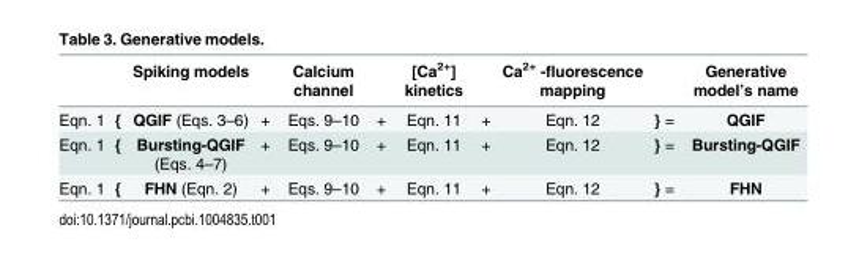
<table><thead><tr><td></td><td></td><td>Spiking models</td><td></td><td>Calcium channel</td><td></td><td>[Ca<sup>2+</sup>] kinetics</td><td></td><td>Ca<sup>2+</sup> -fluorescence mapping</td><td></td><td>Generative model’s name</td></tr></thead><tbody><tr><td>Eqn. 1</td><td>{</td><td>QGIF (Eqs. 3–6)</td><td>+</td><td>Eqs. 9–10</td><td>+</td><td>Eqn. 11</td><td>+</td><td>Eqn. 12</td><td>} =</td><td>QGIF</td></tr><tr><td>Eqn. 1</td><td>{</td><td>Bursting-QGIF (Eqs. 4–7)</td><td>+</td><td>Eqs. 9–10</td><td>+</td><td>Eqn. 11</td><td>+</td><td>Eqn. 12</td><td>} =</td><td>Bursting-QGIF</td></tr><tr><td>Eqn. 1</td><td>{</td><td>FHN (Eqn. 2)</td><td>+</td><td>Eqs. 9–10</td><td>+</td><td>Eqn. 11</td><td>+</td><td>Eqn. 12</td><td>} =</td><td>FHN</td></tr></tbody></table>